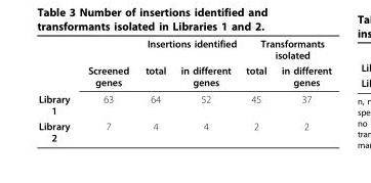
<table><thead><tr><td rowspan="2"></td><td rowspan="2">Screened genes</td><td colspan="2">Insertions identified</td><td colspan="2">Transformants isolated</td></tr><tr><td>total</td><td>in different genes</td><td>total</td><td>in different genes</td></tr></thead><tbody><tr><td>Library 1</td><td>63</td><td>64</td><td>52</td><td>45</td><td>37</td></tr><tr><td>Library 2</td><td>7</td><td>4</td><td>4</td><td>2</td><td>2</td></tr></tbody></table>